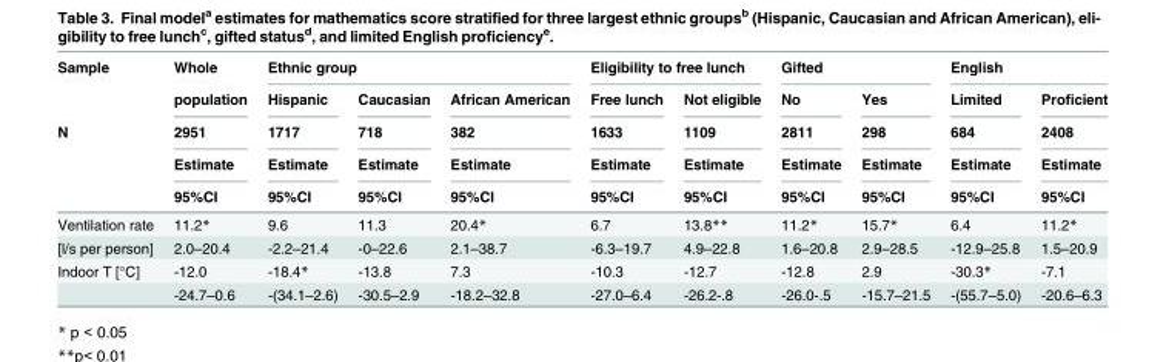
<table><thead><tr><td rowspan="5">Sample N</td><td rowspan="5">Whole population 2951 Estimate 95%CI</td><td colspan="3">Ethnic group</td><td colspan="2">Eligibility to free lunch</td><td colspan="2">Gifted</td><td colspan="2">English</td></tr><tr><td rowspan="4">Hispanic 1717 Estimate 95%CI</td><td rowspan="4">Caucasian 718 Estimate 95%CI</td><td rowspan="4">African American 382 Estimate 95%CI</td><td rowspan="4">Free lunch 1633 Estimate 95%CI</td><td rowspan="4">Not eligible 1109 Estimate 95%CI</td><td rowspan="4">No 2811 Estimate 95%CI</td><td rowspan="4">Yes 298 Estimate 95%CI</td><td rowspan="4">Limited 684 Estimate 95%CI</td><td rowspan="4">Proficient 2408 Estimate 95%CI</td></tr><tr></tr><tr></tr><tr></tr></thead><tbody><tr><td>Ventilation rate</td><td>11.2*</td><td>9.6</td><td>11.3</td><td>20.4*</td><td>6.7</td><td>13.8**</td><td>11.2*</td><td>15.7*</td><td>6.4</td><td>11.2*</td></tr><tr><td>[l/s per person]</td><td>2.0–20.4</td><td>-2.2–21.4</td><td>-0–22.6</td><td>2.1–38.7</td><td>-6.3–19.7</td><td>4.9–22.8</td><td>1.6–20.8</td><td>2.9–28.5</td><td>-12.9–25.8</td><td>1.5–20.9</td></tr><tr><td rowspan="2">Indoor T [°C]</td><td>-12.0</td><td>-18.4*</td><td>-13.8</td><td>7.3</td><td>-10.3</td><td>-12.7</td><td>-12.8</td><td>2.9</td><td>-30.3*</td><td>-7.1</td></tr><tr><td>-24.7–0.6</td><td>-(34.1–2.6)</td><td>-30.5–2.9</td><td>-18.2–32.8</td><td>-27.0–6.4</td><td>-26.2-.8</td><td>-26.0-.5</td><td>-15.7–21.5</td><td>-(55.7–5.0)</td><td>-20.6–6.3</td></tr></tbody></table>